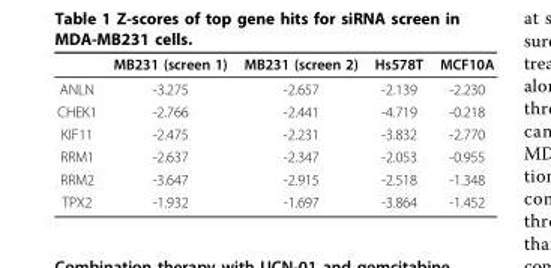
<table><thead><tr><td></td><td>MB231 (screen 1)</td><td>MB231 (screen 2)</td><td>Hs578T</td><td>MCF10A</td></tr></thead><tbody><tr><td>ANLN</td><td>-3.275</td><td>-2.657</td><td>-2.139</td><td>-2.230</td></tr><tr><td>CHEK1</td><td>-2.766</td><td>-2.441</td><td>-4.719</td><td>-0.218</td></tr><tr><td>KIF11</td><td>-2.475</td><td>-2.231</td><td>-3.832</td><td>-2.770</td></tr><tr><td>RRM1</td><td>-2.637</td><td>-2.347</td><td>-2.053</td><td>-0.955</td></tr><tr><td>RRM2</td><td>-3.647</td><td>-2.915</td><td>-2.518</td><td>-1.348</td></tr><tr><td>TPX2</td><td>-1.932</td><td>-1.697</td><td>-3.864</td><td>-1.452</td></tr></tbody></table>